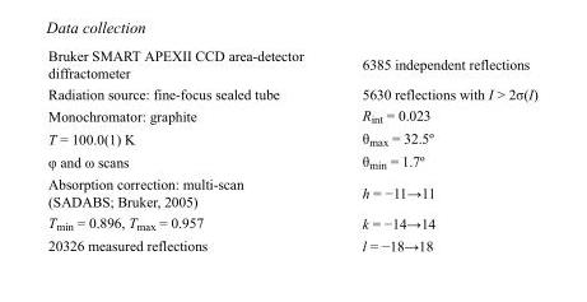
<table><tbody><tr><td>Bruker SMART APEXII CCD area-detector diffractometer</td><td>6385 independent reflections</td></tr><tr><td>Radiation source: fine-focus sealed tube</td><td>5630 reflections with I &gt; 2σ(I)</td></tr><tr><td>Monochromator: graphite</td><td>R<sub>int</sub> = 0.023</td></tr><tr><td>T = 100.0(1) K</td><td>θ<sub>max</sub> = 32.5º</td></tr><tr><td>φ and ω scans</td><td>θ<sub>min</sub> = 1.7º</td></tr><tr><td>Absorption correction: multi-scan (SADABS; Bruker, 2005)</td><td>h = −11→11</td></tr><tr><td>T<sub>min</sub> = 0.896, T<sub>max</sub> = 0.957</td><td>k = −14→14</td></tr><tr><td>20326 measured reflections</td><td>l = −18→18</td></tr></tbody></table>